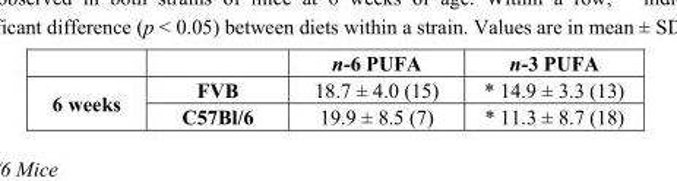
<table><thead><tr><td></td><td></td><td>n-6 PUFA</td><td>n-3 PUFA</td></tr></thead><tbody><tr><td rowspan="2">6 weeks</td><td>FVB</td><td>18.7 ± 4.0 (15)</td><td>* 14.9 ± 3.3 (13)</td></tr><tr><td>C57Bl/6</td><td>19.9 ± 8.5 (7)</td><td>* 11.3 ± 8.7 (18)</td></tr></tbody></table>